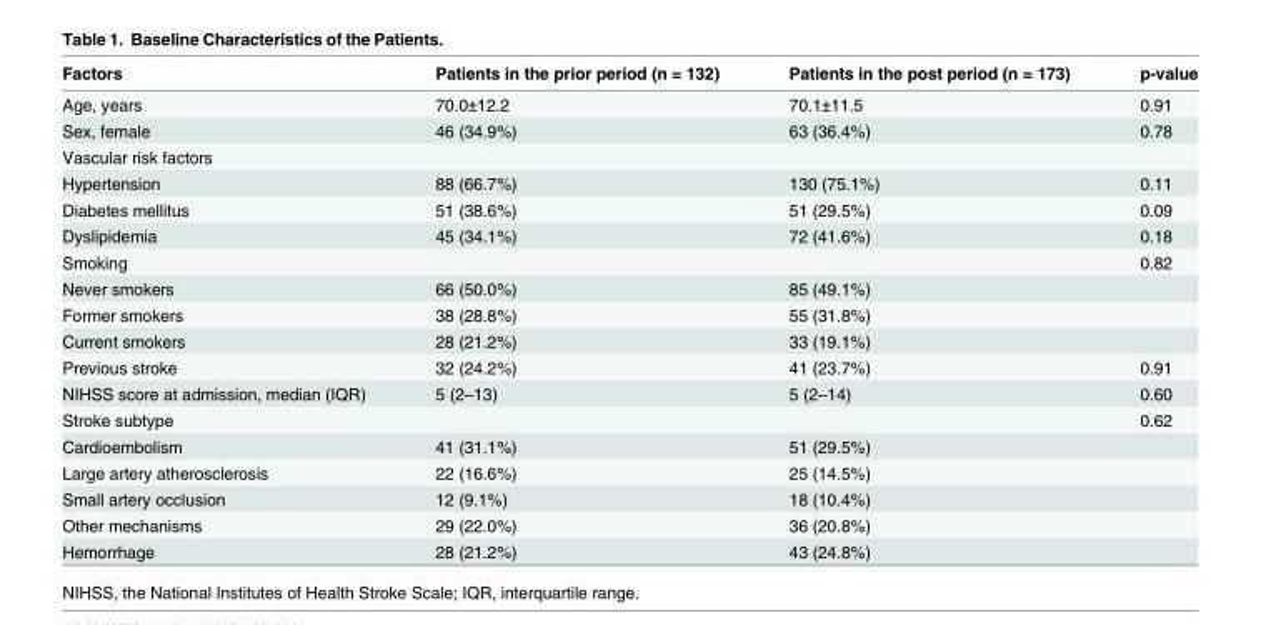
<table><thead><tr><td>Factors</td><td>Patients in the prior period (n = 132)</td><td>Patients in the post period (n = 173)</td><td>p-value</td></tr></thead><tbody><tr><td>Age, years</td><td>70.0±12.2</td><td>70.1±11.5</td><td>0.91</td></tr><tr><td>Sex, female</td><td>46 (34.9%)</td><td>63 (36.4%)</td><td>0.78</td></tr><tr><td colspan="4">Vascular risk factors</td></tr><tr><td>Hypertension</td><td>88 (66.7%)</td><td>130 (75.1%)</td><td>0.11</td></tr><tr><td>Diabetes mellitus</td><td>51 (38.6%)</td><td>51 (29.5%)</td><td>0.09</td></tr><tr><td>Dyslipidemia</td><td>45 (34.1%)</td><td>72 (41.6%)</td><td>0.18</td></tr><tr><td>Smoking</td><td></td><td></td><td>0.82</td></tr><tr><td>Never smokers</td><td>66 (50.0%)</td><td>85 (49.1%)</td><td></td></tr><tr><td>Former smokers</td><td>38 (28.8%)</td><td>55 (31.8%)</td><td></td></tr><tr><td>Current smokers</td><td>28 (21.2%)</td><td>33 (19.1%)</td><td></td></tr><tr><td>Previous stroke</td><td>32 (24.2%)</td><td>41 (23.7%)</td><td>0.91</td></tr><tr><td>NIHSS score at admission, median (IQR)</td><td>5 (2–13)</td><td>5 (2–14)</td><td>0.60</td></tr><tr><td>Stroke subtype</td><td></td><td></td><td>0.62</td></tr><tr><td>Cardioembolism</td><td>41 (31.1%)</td><td>51 (29.5%)</td><td></td></tr><tr><td>Large artery atherosclerosis</td><td>22 (16.6%)</td><td>25 (14.5%)</td><td></td></tr><tr><td>Small artery occlusion</td><td>12 (9.1%)</td><td>18 (10.4%)</td><td></td></tr><tr><td>Other mechanisms</td><td>29 (22.0%)</td><td>36 (20.8%)</td><td></td></tr><tr><td>Hemorrhage</td><td>28 (21.2%)</td><td>43 (24.8%)</td><td></td></tr></tbody></table>